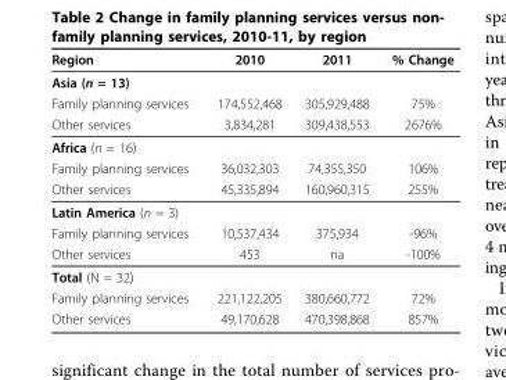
<table><thead><tr><td>Region</td><td>2010</td><td>2011</td><td>% Change</td></tr></thead><tbody><tr><td colspan="4">Asia (n = 13)</td></tr><tr><td>Family planning services</td><td>174,552,468</td><td>305,929,488</td><td>75%</td></tr><tr><td>Other services</td><td>3,834,281</td><td>309,438,553</td><td>2676%</td></tr><tr><td colspan="4">Africa (n = 16)</td></tr><tr><td>Family planning services</td><td>36,032,303</td><td>74,355,350</td><td>106%</td></tr><tr><td>Other services</td><td>45,335,894</td><td>160,960,315</td><td>255%</td></tr><tr><td colspan="4">Latin America (n = 3)</td></tr><tr><td>Family planning services</td><td>10,537,434</td><td>375,934</td><td>-96%</td></tr><tr><td>Other services</td><td>453</td><td>na</td><td>-100%</td></tr><tr><td colspan="4">Total (N = 32)</td></tr><tr><td>Family planning services</td><td>221,122,205</td><td>380,660,772</td><td>72%</td></tr><tr><td>Other services</td><td>49,170,628</td><td>470,398,868</td><td>857%</td></tr></tbody></table>